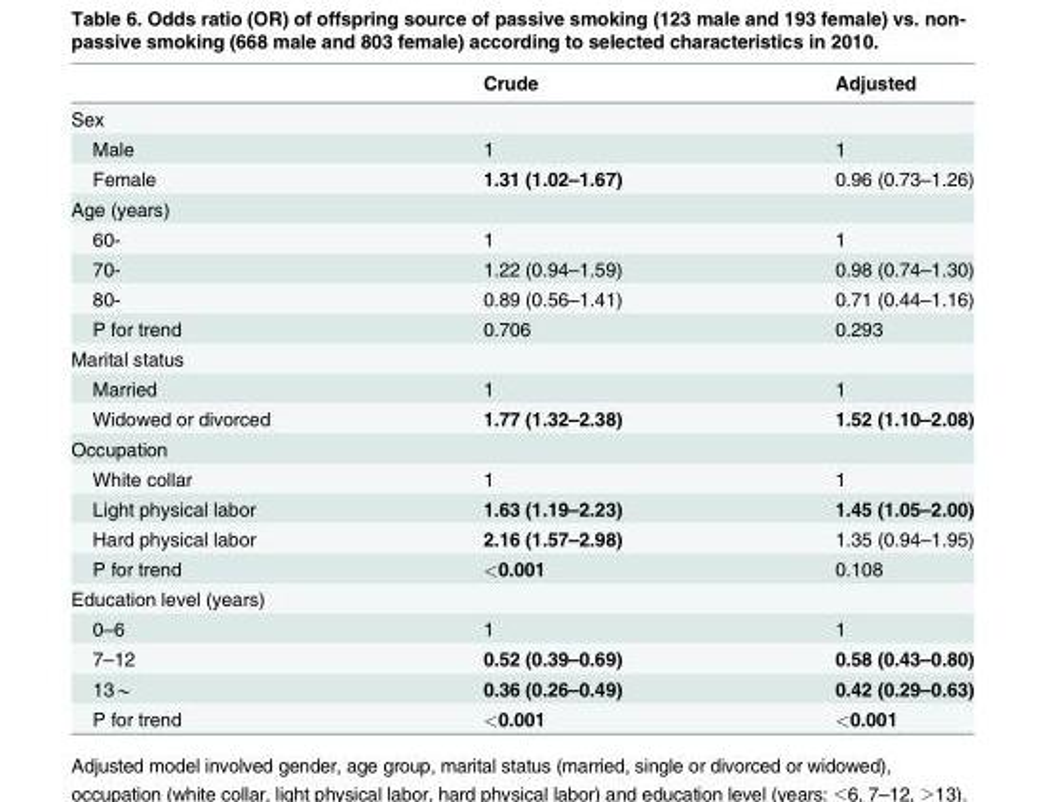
<table><thead><tr><td></td><td>Crude</td><td>Adjusted</td></tr></thead><tbody><tr><td colspan="3">Sex</td></tr><tr><td>Male</td><td>1</td><td>1</td></tr><tr><td>Female</td><td>1.31 (1.02–1.67)</td><td>0.96 (0.73–1.26)</td></tr><tr><td colspan="3">Age (years)</td></tr><tr><td>60-</td><td>1</td><td>1</td></tr><tr><td>70-</td><td>1.22 (0.94–1.59)</td><td>0.98 (0.74–1.30)</td></tr><tr><td>80-</td><td>0.89 (0.56–1.41)</td><td>0.71 (0.44–1.16)</td></tr><tr><td>P for trend</td><td>0.706</td><td>0.293</td></tr><tr><td colspan="3">Marital status</td></tr><tr><td>Married</td><td>1</td><td>1</td></tr><tr><td>Widowed or divorced</td><td>1.77 (1.32–2.38)</td><td>1.52 (1.10–2.08)</td></tr><tr><td colspan="3">Occupation</td></tr><tr><td>White collar</td><td>1</td><td>1</td></tr><tr><td>Light physical labor</td><td>1.63 (1.19–2.23)</td><td>1.45 (1.05–2.00)</td></tr><tr><td>Hard physical labor</td><td>2.16 (1.57–2.98)</td><td>1.35 (0.94–1.95)</td></tr><tr><td>P for trend</td><td>&lt;0.001</td><td>0.108</td></tr><tr><td colspan="3">Education level (years)</td></tr><tr><td>0–6</td><td>1</td><td>1</td></tr><tr><td>7–12</td><td>0.52 (0.39–0.69)</td><td>0.58 (0.43–0.80)</td></tr><tr><td>13*</td><td>0.36 (0.26–0.49)</td><td>0.42 (0.29–0.63)</td></tr><tr><td>P for trend</td><td>&lt;0.001</td><td>&lt;0.001</td></tr></tbody></table>